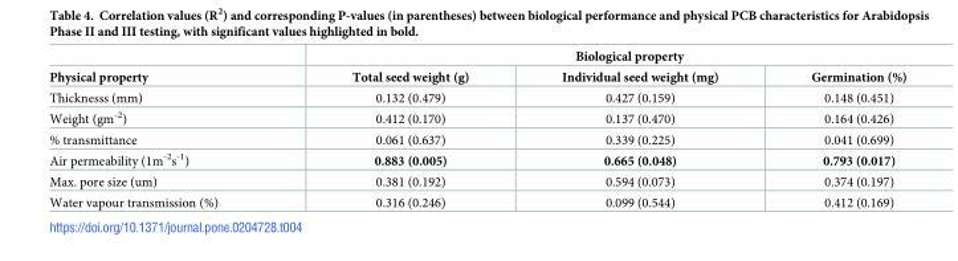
<table><thead><tr><td rowspan="2">Physical property</td><td colspan="3">Biological property</td></tr><tr><td>Total seed weight (g)</td><td>Individual seed weight (mg)</td><td>Germination (%)</td></tr></thead><tbody><tr><td>Thicknesss (mm)</td><td>0.132 (0.479)</td><td>0.427 (0.159)</td><td>0.148 (0.451)</td></tr><tr><td>Weight (gm<sup>-2</sup>)</td><td>0.412 (0.170)</td><td>0.137 (0.470)</td><td>0.164 (0.426)</td></tr><tr><td>% transmittance</td><td>0.061 (0.637)</td><td>0.339 (0.225)</td><td>0.041 (0.699)</td></tr><tr><td>Air permeability (1m<sup>-2</sup>s<sup>-1</sup>)</td><td>0.883 (0.005)</td><td>0.665 (0.048)</td><td>0.793 (0.017)</td></tr><tr><td>Max. pore size (um)</td><td>0.381 (0.192)</td><td>0.594 (0.073)</td><td>0.374 (0.197)</td></tr><tr><td>Water vapour transmission (%)</td><td>0.316 (0.246)</td><td>0.099 (0.544)</td><td>0.412 (0.169)</td></tr></tbody></table>